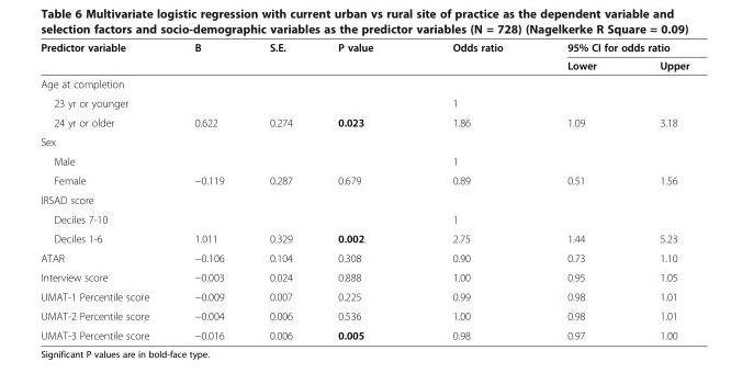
<table><thead><tr><td rowspan="2">Predictor variable</td><td rowspan="2">B</td><td rowspan="2">S.E.</td><td rowspan="2">P value</td><td rowspan="2">Odds ratio</td><td colspan="2">95% CI for odds ratio</td></tr><tr><td>Lower</td><td>Upper</td></tr></thead><tbody><tr><td colspan="7">Age at completion</td></tr><tr><td>23 yr or younger</td><td></td><td></td><td></td><td>1</td><td></td><td></td></tr><tr><td>24 yr or older</td><td>0.622</td><td>0.274</td><td>0.023</td><td>1.86</td><td>1.09</td><td>3.18</td></tr><tr><td colspan="7">Sex</td></tr><tr><td>Male</td><td></td><td></td><td></td><td>1</td><td></td><td></td></tr><tr><td>Female</td><td>−0.119</td><td>0.287</td><td>0.679</td><td>0.89</td><td>0.51</td><td>1.56</td></tr><tr><td colspan="7">IRSAD score</td></tr><tr><td>Deciles 7-10</td><td></td><td></td><td></td><td>1</td><td></td><td></td></tr><tr><td>Deciles 1-6</td><td>1.011</td><td>0.329</td><td>0.002</td><td>2.75</td><td>1.44</td><td>5.23</td></tr><tr><td>ATAR</td><td>−0.106</td><td>0.104</td><td>0.308</td><td>0.90</td><td>0.73</td><td>1.10</td></tr><tr><td>Interview score</td><td>−0.003</td><td>0.024</td><td>0.888</td><td>1.00</td><td>0.95</td><td>1.05</td></tr><tr><td>UMAT-1 Percentile score</td><td>−0.009</td><td>0.007</td><td>0.225</td><td>0.99</td><td>0.98</td><td>1.01</td></tr><tr><td>UMAT-2 Percentile score</td><td>−0.004</td><td>0.006</td><td>0.536</td><td>1.00</td><td>0.98</td><td>1.01</td></tr><tr><td>UMAT-3 Percentile score</td><td>−0.016</td><td>0.006</td><td>0.005</td><td>0.98</td><td>0.97</td><td>1.00</td></tr></tbody></table>